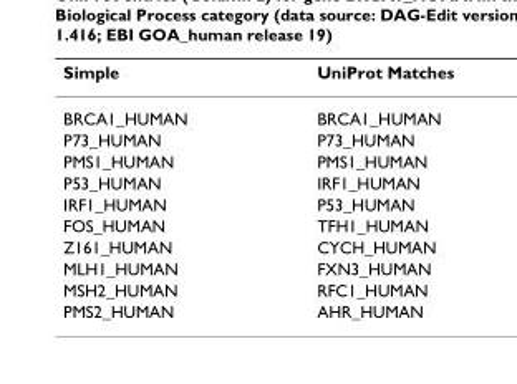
<table><thead><tr><td>Simple</td><td>UniProt Matches</td></tr></thead><tbody><tr><td>BRCA1_HUMAN</td><td>BRCA1_HUMAN</td></tr><tr><td>P73_HUMAN</td><td>P73_HUMAN</td></tr><tr><td>PMS1_HUMAN</td><td>PMS1_HUMAN</td></tr><tr><td>P53_HUMAN</td><td>IRF1_HUMAN</td></tr><tr><td>IRF1_HUMAN</td><td>P53_HUMAN</td></tr><tr><td>FOS_HUMAN</td><td>TFH1_HUMAN</td></tr><tr><td>Z161_HUMAN</td><td>CYCH_HUMAN</td></tr><tr><td>MLH1_HUMAN</td><td>FXN3_HUMAN</td></tr><tr><td>MSH2_HUMAN</td><td>RFC1_HUMAN</td></tr><tr><td>PMS2_HUMAN</td><td>AHR_HUMAN</td></tr></tbody></table>